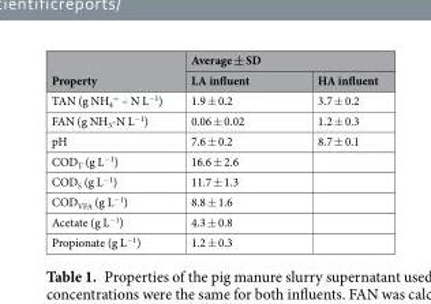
<table><thead><tr><td rowspan="2">Property</td><td colspan="2">Average ± SD</td></tr><tr><td>LA influent</td><td>HA influent</td></tr></thead><tbody><tr><td>TAN (g NH<sub>4</sub> <sup>+</sup> – N L<sup>−1</sup>)</td><td>1.9 ± 0.2</td><td>3.7 ± 0.2</td></tr><tr><td>FAN (g NH<sub>3</sub>-N L<sup>−1</sup>)</td><td>0.06 ± 0.02</td><td>1.2 ± 0.3</td></tr><tr><td>pH</td><td>7.6 ± 0.2</td><td>8.7 ± 0.1</td></tr><tr><td>COD<sub>T</sub> (g L<sup>−1</sup>)</td><td>16.6 ± 2.6</td><td></td></tr><tr><td>COD<sub>S</sub> (g L<sup>−1</sup>)</td><td>11.7 ± 1.3</td><td></td></tr><tr><td>COD<sub>VFA</sub> (g L<sup>−1</sup>)</td><td>8.8 ± 1.6</td><td></td></tr><tr><td>Acetate (g L<sup>−1</sup>)</td><td>4.3 ± 0.8</td><td></td></tr><tr><td>Propionate (g L<sup>−1</sup>)</td><td>1.2 ± 0.3</td><td></td></tr></tbody></table>